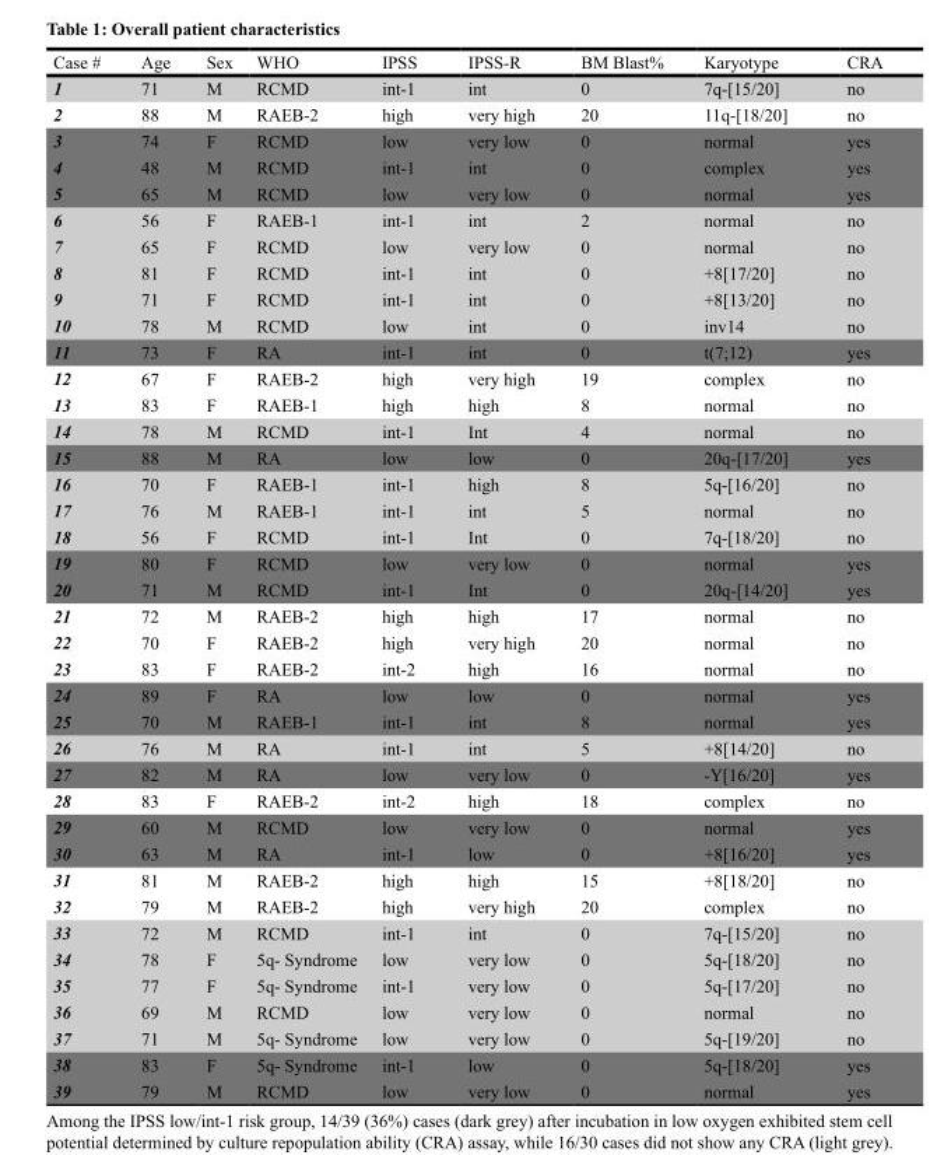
<table><thead><tr><td>Case #</td><td>Age</td><td>Sex</td><td>WHO</td><td>IPSS</td><td>IPSS-R</td><td>BM Blast%</td><td>Karyotype</td><td>CRA</td></tr></thead><tbody><tr><td>1</td><td>71</td><td>M</td><td>RCMD</td><td>int-1</td><td>int</td><td>0</td><td>7q-[15/20]</td><td>no</td></tr><tr><td>2</td><td>88</td><td>M</td><td>RAEB-2</td><td>high</td><td>very high</td><td>20</td><td>11q-[18/20]</td><td>no</td></tr><tr><td>3</td><td>74</td><td>F</td><td>RCMD</td><td>low</td><td>very low</td><td>0</td><td>normal</td><td>yes</td></tr><tr><td>4</td><td>48</td><td>M</td><td>RCMD</td><td>int-1</td><td>int</td><td>0</td><td>complex</td><td>yes</td></tr><tr><td>5</td><td>65</td><td>M</td><td>RCMD</td><td>low</td><td>very low</td><td>0</td><td>normal</td><td>yes</td></tr><tr><td>6</td><td>56</td><td>F</td><td>RAEB-1</td><td>int-1</td><td>int</td><td>2</td><td>normal</td><td>no</td></tr><tr><td>7</td><td>65</td><td>F</td><td>RCMD</td><td>low</td><td>very low</td><td>0</td><td>normal</td><td>no</td></tr><tr><td>8</td><td>81</td><td>F</td><td>RCMD</td><td>int-1</td><td>int</td><td>0</td><td>+8[17/20]</td><td>no</td></tr><tr><td>9</td><td>71</td><td>F</td><td>RCMD</td><td>int-1</td><td>int</td><td>0</td><td>+8[13/20]</td><td>no</td></tr><tr><td>10</td><td>78</td><td>M</td><td>RCMD</td><td>low</td><td>int</td><td>0</td><td>inv14</td><td>no</td></tr><tr><td>11</td><td>73</td><td>F</td><td>RA</td><td>int-1</td><td>int</td><td>0</td><td>t(7;12)</td><td>yes</td></tr><tr><td>12</td><td>67</td><td>F</td><td>RAEB-2</td><td>high</td><td>very high</td><td>19</td><td>complex</td><td>no</td></tr><tr><td>13</td><td>83</td><td>F</td><td>RAEB-1</td><td>high</td><td>high</td><td>8</td><td>normal</td><td>no</td></tr><tr><td>14</td><td>78</td><td>M</td><td>RCMD</td><td>int-1</td><td>Int</td><td>4</td><td>normal</td><td>no</td></tr><tr><td>15</td><td>88</td><td>M</td><td>RA</td><td>low</td><td>low</td><td>0</td><td>20q-[17/20]</td><td>yes</td></tr><tr><td>16</td><td>70</td><td>F</td><td>RAEB-1</td><td>int-1</td><td>high</td><td>8</td><td>5q-[16/20]</td><td>no</td></tr><tr><td>17</td><td>76</td><td>M</td><td>RAEB-1</td><td>int-1</td><td>int</td><td>5</td><td>normal</td><td>no</td></tr><tr><td>18</td><td>56</td><td>F</td><td>RCMD</td><td>int-1</td><td>Int</td><td>0</td><td>7q-[18/20]</td><td>no</td></tr><tr><td>19</td><td>80</td><td>F</td><td>RCMD</td><td>low</td><td>very low</td><td>0</td><td>normal</td><td>yes</td></tr><tr><td>20</td><td>71</td><td>M</td><td>RCMD</td><td>int-1</td><td>Int</td><td>0</td><td>20q-[14/20]</td><td>yes</td></tr><tr><td>21</td><td>72</td><td>M</td><td>RAEB-2</td><td>high</td><td>high</td><td>17</td><td>normal</td><td>no</td></tr><tr><td>22</td><td>70</td><td>F</td><td>RAEB-2</td><td>high</td><td>very high</td><td>20</td><td>normal</td><td>no</td></tr><tr><td>23</td><td>83</td><td>F</td><td>RAEB-2</td><td>int-2</td><td>high</td><td>16</td><td>normal</td><td>no</td></tr><tr><td>24</td><td>89</td><td>F</td><td>RA</td><td>low</td><td>low</td><td>0</td><td>normal</td><td>yes</td></tr><tr><td>25</td><td>70</td><td>M</td><td>RAEB-1</td><td>int-1</td><td>int</td><td>8</td><td>normal</td><td>yes</td></tr><tr><td>26</td><td>76</td><td>M</td><td>RA</td><td>int-1</td><td>int</td><td>5</td><td>+8[14/20]</td><td>no</td></tr><tr><td>27</td><td>82</td><td>M</td><td>RA</td><td>low</td><td>very low</td><td>0</td><td>-Y[16/20]</td><td>yes</td></tr><tr><td>28</td><td>83</td><td>F</td><td>RAEB-2</td><td>int-2</td><td>high</td><td>18</td><td>complex</td><td>no</td></tr><tr><td>29</td><td>60</td><td>M</td><td>RCMD</td><td>low</td><td>very low</td><td>0</td><td>normal</td><td>yes</td></tr><tr><td>30</td><td>63</td><td>M</td><td>RA</td><td>int-1</td><td>low</td><td>0</td><td>+8[16/20]</td><td>yes</td></tr><tr><td>31</td><td>81</td><td>M</td><td>RAEB-2</td><td>high</td><td>high</td><td>15</td><td>+8[18/20]</td><td>no</td></tr><tr><td>32</td><td>79</td><td>M</td><td>RAEB-2</td><td>high</td><td>very high</td><td>20</td><td>complex</td><td>no</td></tr><tr><td>33</td><td>72</td><td>M</td><td>RCMD</td><td>int-1</td><td>int</td><td>0</td><td>7q-[15/20]</td><td>no</td></tr><tr><td>34</td><td>78</td><td>F</td><td>5q- Syndrome</td><td>low</td><td>very low</td><td>0</td><td>5q-[18/20]</td><td>no</td></tr><tr><td>35</td><td>77</td><td>F</td><td>5q- Syndrome</td><td>int-1</td><td>very low</td><td>0</td><td>5q-[17/20]</td><td>no</td></tr><tr><td>36</td><td>69</td><td>M</td><td>RCMD</td><td>low</td><td>very low</td><td>0</td><td>normal</td><td>no</td></tr><tr><td>37</td><td>71</td><td>M</td><td>5q- Syndrome</td><td>low</td><td>very low</td><td>0</td><td>5q-[19/20]</td><td>no</td></tr><tr><td>38</td><td>83</td><td>F</td><td>5q- Syndrome</td><td>int-1</td><td>low</td><td>0</td><td>5q-[18/20]</td><td>yes</td></tr><tr><td>39</td><td>79</td><td>M</td><td>RCMD</td><td>low</td><td>very low</td><td>0</td><td>normal</td><td>yes</td></tr></tbody></table>